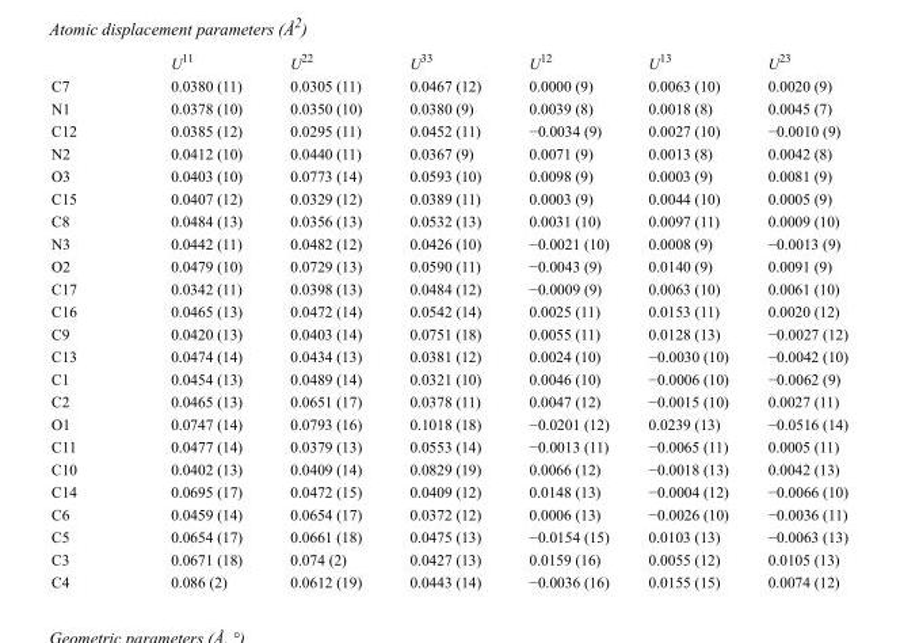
<table><thead><tr><td></td><td>U<sup>11</sup></td><td>U<sup>22</sup></td><td>U<sup>33</sup></td><td>U<sup>12</sup></td><td>U<sup>13</sup></td><td>U<sup>23</sup></td></tr></thead><tbody><tr><td>C7</td><td>0.0380 (11)</td><td>0.0305 (11)</td><td>0.0467 (12)</td><td>0.0000 (9)</td><td>0.0063 (10)</td><td>0.0020 (9)</td></tr><tr><td>N1</td><td>0.0378 (10)</td><td>0.0350 (10)</td><td>0.0380 (9)</td><td>0.0039 (8)</td><td>0.0018 (8)</td><td>0.0045 (7)</td></tr><tr><td>C12</td><td>0.0385 (12)</td><td>0.0295 (11)</td><td>0.0452 (11)</td><td>−0.0034 (9)</td><td>0.0027 (10)</td><td>−0.0010 (9)</td></tr><tr><td>N2</td><td>0.0412 (10)</td><td>0.0440 (11)</td><td>0.0367 (9)</td><td>0.0071 (9)</td><td>0.0013 (8)</td><td>0.0042 (8)</td></tr><tr><td>O3</td><td>0.0403 (10)</td><td>0.0773 (14)</td><td>0.0593 (10)</td><td>0.0098 (9)</td><td>0.0003 (9)</td><td>0.0081 (9)</td></tr><tr><td>C15</td><td>0.0407 (12)</td><td>0.0329 (12)</td><td>0.0389 (11)</td><td>0.0003 (9)</td><td>0.0044 (10)</td><td>0.0005 (9)</td></tr><tr><td>C8</td><td>0.0484 (13)</td><td>0.0356 (13)</td><td>0.0532 (13)</td><td>0.0031 (10)</td><td>0.0097 (11)</td><td>0.0009 (10)</td></tr><tr><td>N3</td><td>0.0442 (11)</td><td>0.0482 (12)</td><td>0.0426 (10)</td><td>−0.0021 (10)</td><td>0.0008 (9)</td><td>−0.0013 (9)</td></tr><tr><td>O2</td><td>0.0479 (10)</td><td>0.0729 (13)</td><td>0.0590 (11)</td><td>−0.0043 (9)</td><td>0.0140 (9)</td><td>0.0091 (9)</td></tr><tr><td>C17</td><td>0.0342 (11)</td><td>0.0398 (13)</td><td>0.0484 (12)</td><td>−0.0009 (9)</td><td>0.0063 (10)</td><td>0.0061 (10)</td></tr><tr><td>C16</td><td>0.0465 (13)</td><td>0.0472 (14)</td><td>0.0542 (14)</td><td>0.0025 (11)</td><td>0.0153 (11)</td><td>0.0020 (12)</td></tr><tr><td>C9</td><td>0.0420 (13)</td><td>0.0403 (14)</td><td>0.0751 (18)</td><td>0.0055 (11)</td><td>0.0128 (13)</td><td>−0.0027 (12)</td></tr><tr><td>C13</td><td>0.0474 (14)</td><td>0.0434 (13)</td><td>0.0381 (12)</td><td>0.0024 (10)</td><td>−0.0030 (10)</td><td>−0.0042 (10)</td></tr><tr><td>C1</td><td>0.0454 (13)</td><td>0.0489 (14)</td><td>0.0321 (10)</td><td>0.0046 (10)</td><td>−0.0006 (10)</td><td>−0.0062 (9)</td></tr><tr><td>C2</td><td>0.0465 (13)</td><td>0.0651 (17)</td><td>0.0378 (11)</td><td>0.0047 (12)</td><td>−0.0015 (10)</td><td>0.0027 (11)</td></tr><tr><td>O1</td><td>0.0747 (14)</td><td>0.0793 (16)</td><td>0.1018 (18)</td><td>−0.0201 (12)</td><td>0.0239 (13)</td><td>−0.0516 (14)</td></tr><tr><td>C11</td><td>0.0477 (14)</td><td>0.0379 (13)</td><td>0.0553 (14)</td><td>−0.0013 (11)</td><td>−0.0065 (11)</td><td>0.0005 (11)</td></tr><tr><td>C10</td><td>0.0402 (13)</td><td>0.0409 (14)</td><td>0.0829 (19)</td><td>0.0066 (12)</td><td>−0.0018 (13)</td><td>0.0042 (13)</td></tr><tr><td>C14</td><td>0.0695 (17)</td><td>0.0472 (15)</td><td>0.0409 (12)</td><td>0.0148 (13)</td><td>−0.0004 (12)</td><td>−0.0066 (10)</td></tr><tr><td>C6</td><td>0.0459 (14)</td><td>0.0654 (17)</td><td>0.0372 (12)</td><td>0.0006 (13)</td><td>−0.0026 (10)</td><td>−0.0036 (11)</td></tr><tr><td>C5</td><td>0.0654 (17)</td><td>0.0661 (18)</td><td>0.0475 (13)</td><td>−0.0154 (15)</td><td>0.0103 (13)</td><td>−0.0063 (13)</td></tr><tr><td>C3</td><td>0.0671 (18)</td><td>0.074 (2)</td><td>0.0427 (13)</td><td>0.0159 (16)</td><td>0.0055 (12)</td><td>0.0105 (13)</td></tr><tr><td>C4</td><td>0.086 (2)</td><td>0.0612 (19)</td><td>0.0443 (14)</td><td>−0.0036 (16)</td><td>0.0155 (15)</td><td>0.0074 (12)</td></tr></tbody></table>